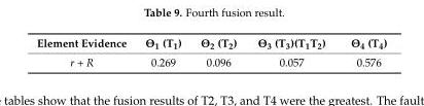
<table><thead><tr><td>Element Evidence</td><td>Θ<sub>1</sub> (T<sub>1</sub>)</td><td>Θ<sub>2</sub> (T<sub>2</sub>)</td><td>Θ<sub>3</sub> (T<sub>3</sub>)(T<sub>1</sub>T<sub>2</sub>)</td><td>Θ<sub>4</sub> (T<sub>4</sub>)</td></tr></thead><tbody><tr><td>r + R</td><td>0.269</td><td>0.096</td><td>0.057</td><td>0.576</td></tr></tbody></table>